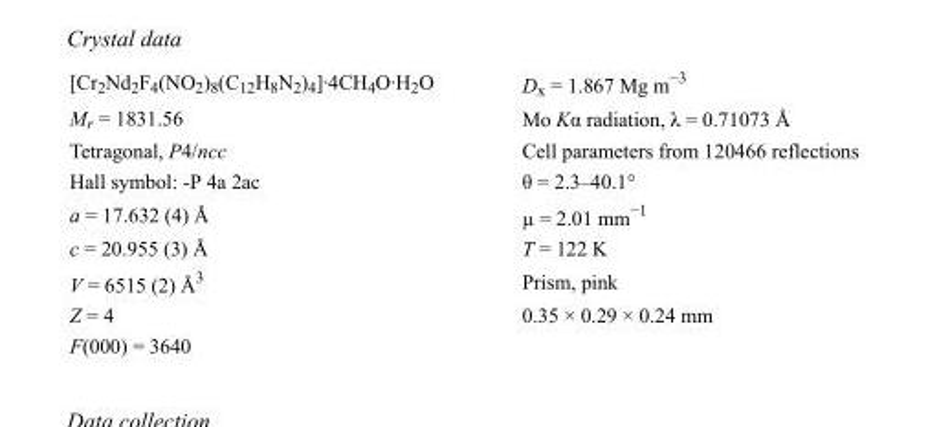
<table><tbody><tr><td>[Cr<sub>2</sub>Nd<sub>2</sub>F<sub>4</sub>(NO<sub>2</sub>)<sub>8</sub>(C<sub>12</sub>H<sub>8</sub>N<sub>2</sub>)<sub>4</sub>]·4CH<sub>4</sub>O·H<sub>2</sub>O</td><td>D<sub>x</sub> = 1.867 Mg m<sup>−3</sup></td></tr><tr><td>M<sub>r</sub> = 1831.56</td><td>Mo Kα radiation, λ = 0.71073 Å</td></tr><tr><td>Tetragonal, P4/ncc</td><td>Cell parameters from 120466 reflections</td></tr><tr><td>Hall symbol: -P 4a 2ac</td><td>θ = 2.3–40.1°</td></tr><tr><td>a = 17.632 (4) Å</td><td>µ = 2.01 mm<sup>−1</sup></td></tr><tr><td>c = 20.955 (3) Å</td><td>T = 122 K</td></tr><tr><td>V = 6515 (2) Å<sup>3</sup></td><td>Prism, pink</td></tr><tr><td>Z = 4</td><td>0.35 × 0.29 × 0.24 mm</td></tr><tr><td>F(000) = 3640</td><td></td></tr></tbody></table>